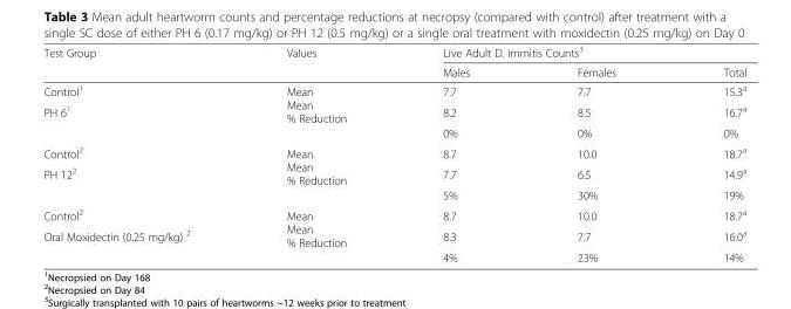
<table><thead><tr><td rowspan="2">Test Group</td><td rowspan="2">Values</td><td colspan="3">Live Adult D. immitis Counts<sup>3</sup></td></tr><tr><td>Males</td><td>Females</td><td>Total</td></tr></thead><tbody><tr><td>Control<sup>1</sup></td><td rowspan="3">Mean Mean % Reduction</td><td>7.7</td><td>7.7</td><td>15.3<sup>a</sup></td></tr><tr><td rowspan="2">PH 6<sup>1</sup></td><td>8.2</td><td>8.5</td><td>16.7<sup>a</sup></td></tr><tr><td>0%</td><td>0%</td><td>0%</td></tr><tr><td>Control<sup>2</sup></td><td rowspan="3">Mean Mean % Reduction</td><td>8.7</td><td>10.0</td><td>18.7<sup>a</sup></td></tr><tr><td rowspan="2">PH 12<sup>2</sup></td><td>7.7</td><td>6.5</td><td>14.9<sup>a</sup></td></tr><tr><td>5%</td><td>30%</td><td>19%</td></tr><tr><td>Control<sup>2</sup></td><td rowspan="3">Mean Mean % Reduction</td><td>8.7</td><td>10.0</td><td>18.7<sup>a</sup></td></tr><tr><td rowspan="2">Oral Moxidectin (0.25 mg/kg) <sup>2</sup></td><td>8.3</td><td>7.7</td><td>16.0<sup>a</sup></td></tr><tr><td>4%</td><td>23%</td><td>14%</td></tr></tbody></table>